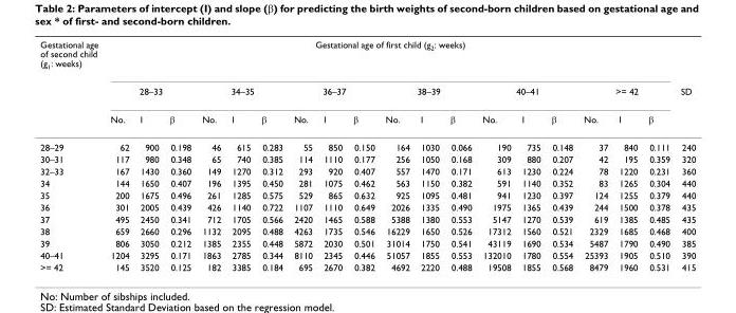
<table><thead><tr><td rowspan="3">Gestational age of second child (g<sub>1</sub>: weeks)</td><td colspan="18">Gestational age of first child (g<sub>2</sub>: weeks)</td><td rowspan="3">SD</td></tr><tr><td colspan="3">28–33</td><td colspan="3">34–35</td><td colspan="3">36–37</td><td colspan="3">38–39</td><td colspan="3">40–41</td><td colspan="3">&gt;= 42</td></tr><tr><td>No.</td><td>I</td><td>β</td><td>No.</td><td>I</td><td>β</td><td>No.</td><td>I</td><td>β</td><td>No.</td><td>I</td><td>β</td><td>No.</td><td>I</td><td>β</td><td>No.</td><td>I</td><td>β</td></tr></thead><tbody><tr><td>28–29</td><td>62</td><td>900</td><td>0.198</td><td>46</td><td>615</td><td>0.283</td><td>55</td><td>850</td><td>0.150</td><td>164</td><td>1030</td><td>0.066</td><td>190</td><td>735</td><td>0.148</td><td>37</td><td>840</td><td>0.111</td><td>240</td></tr><tr><td>30–31</td><td>117</td><td>980</td><td>0.348</td><td>65</td><td>740</td><td>0.385</td><td>114</td><td>1110</td><td>0.177</td><td>256</td><td>1050</td><td>0.168</td><td>309</td><td>880</td><td>0.207</td><td>42</td><td>195</td><td>0.359</td><td>320</td></tr><tr><td>32–33</td><td>167</td><td>1430</td><td>0.360</td><td>149</td><td>1270</td><td>0.312</td><td>293</td><td>920</td><td>0.407</td><td>557</td><td>1470</td><td>0.171</td><td>613</td><td>1230</td><td>0.224</td><td>78</td><td>1220</td><td>0.231</td><td>360</td></tr><tr><td>34</td><td>144</td><td>1650</td><td>0.407</td><td>196</td><td>1395</td><td>0.450</td><td>281</td><td>1075</td><td>0.462</td><td>563</td><td>1150</td><td>0.382</td><td>591</td><td>1140</td><td>0.352</td><td>83</td><td>1265</td><td>0.304</td><td>440</td></tr><tr><td>35</td><td>200</td><td>1675</td><td>0.496</td><td>261</td><td>1285</td><td>0.575</td><td>529</td><td>865</td><td>0.632</td><td>925</td><td>1095</td><td>0.481</td><td>941</td><td>1230</td><td>0.397</td><td>124</td><td>1255</td><td>0.379</td><td>440</td></tr><tr><td>36</td><td>301</td><td>2005</td><td>0.439</td><td>426</td><td>1140</td><td>0.722</td><td>1107</td><td>1110</td><td>0.649</td><td>2026</td><td>1335</td><td>0.490</td><td>1975</td><td>1365</td><td>0.439</td><td>244</td><td>1500</td><td>0.378</td><td>435</td></tr><tr><td>37</td><td>495</td><td>2450</td><td>0.341</td><td>712</td><td>1705</td><td>0.566</td><td>2420</td><td>1465</td><td>0.588</td><td>5388</td><td>1380</td><td>0.553</td><td>5147</td><td>1270</td><td>0.539</td><td>619</td><td>1385</td><td>0.485</td><td>435</td></tr><tr><td>38</td><td>659</td><td>2660</td><td>0.296</td><td>1132</td><td>2095</td><td>0.488</td><td>4263</td><td>1735</td><td>0.546</td><td>16229</td><td>1650</td><td>0.526</td><td>17312</td><td>1560</td><td>0.521</td><td>2329</td><td>1685</td><td>0.468</td><td>400</td></tr><tr><td>39</td><td>806</td><td>3050</td><td>0.212</td><td>1385</td><td>2355</td><td>0.448</td><td>5872</td><td>2030</td><td>0.501</td><td>31014</td><td>1750</td><td>0.541</td><td>43119</td><td>1690</td><td>0.534</td><td>5487</td><td>1790</td><td>0.490</td><td>385</td></tr><tr><td>40–41</td><td>1204</td><td>3295</td><td>0.171</td><td>1863</td><td>2785</td><td>0.344</td><td>8110</td><td>2345</td><td>0.446</td><td>51057</td><td>1855</td><td>0.553</td><td>132010</td><td>1780</td><td>0.554</td><td>25393</td><td>1905</td><td>0.510</td><td>390</td></tr><tr><td>&gt;= 42</td><td>145</td><td>3520</td><td>0.125</td><td>182</td><td>3385</td><td>0.184</td><td>695</td><td>2670</td><td>0.382</td><td>4692</td><td>2220</td><td>0.488</td><td>19508</td><td>1855</td><td>0.568</td><td>8479</td><td>1960</td><td>0.531</td><td>415</td></tr></tbody></table>